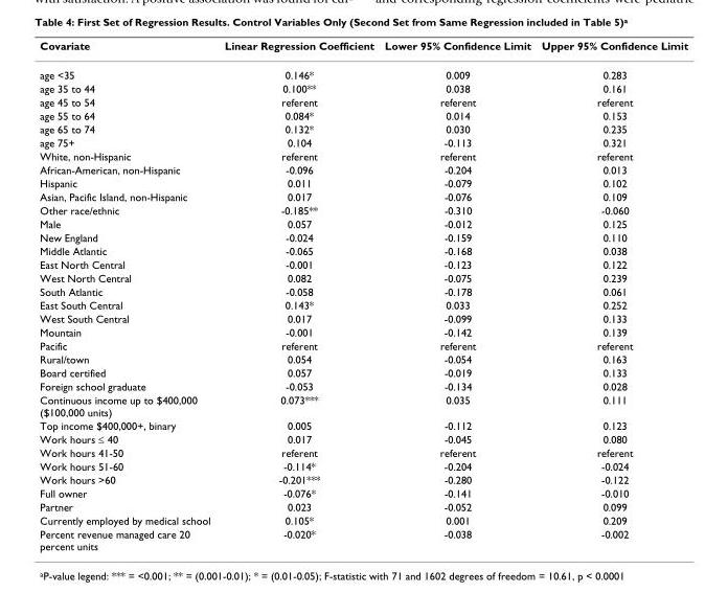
<table><thead><tr><td>Covariate</td><td>Linear Regression Coefficient</td><td>Lower 95% Confidence Limit</td><td>Upper 95% Confidence Limit</td></tr></thead><tbody><tr><td>age &lt;35</td><td>0.146*</td><td>0.009</td><td>0.283</td></tr><tr><td>age 35 to 44</td><td>0.100**</td><td>0.038</td><td>0.161</td></tr><tr><td>age 45 to 54</td><td>referent</td><td>referent</td><td>referent</td></tr><tr><td>age 55 to 64</td><td>0.084*</td><td>0.014</td><td>0.153</td></tr><tr><td>age 65 to 74</td><td>0.132*</td><td>0.030</td><td>0.235</td></tr><tr><td>age 75+</td><td>0.104</td><td>-0.113</td><td>0.321</td></tr><tr><td>White, non-Hispanic</td><td>referent</td><td>referent</td><td>referent</td></tr><tr><td>African-American, non-Hispanic</td><td>-0.096</td><td>-0.204</td><td>0.013</td></tr><tr><td>Hispanic</td><td>0.011</td><td>-0.079</td><td>0.102</td></tr><tr><td>Asian, Pacific Island, non-Hispanic</td><td>0.017</td><td>-0.076</td><td>0.109</td></tr><tr><td>Other race/ethnic</td><td>-0.185**</td><td>-0.310</td><td>-0.060</td></tr><tr><td>Male</td><td>0.057</td><td>-0.012</td><td>0.125</td></tr><tr><td>New England</td><td>-0.024</td><td>-0.159</td><td>0.110</td></tr><tr><td>Middle Atlantic</td><td>-0.065</td><td>-0.168</td><td>0.038</td></tr><tr><td>East North Central</td><td>-0.001</td><td>-0.123</td><td>0.122</td></tr><tr><td>West North Central</td><td>0.082</td><td>-0.075</td><td>0.239</td></tr><tr><td>South Atlantic</td><td>-0.058</td><td>-0.178</td><td>0.061</td></tr><tr><td>East South Central</td><td>0.143*</td><td>0.033</td><td>0.252</td></tr><tr><td>West South Central</td><td>0.017</td><td>-0.099</td><td>0.133</td></tr><tr><td>Mountain</td><td>-0.001</td><td>-0.142</td><td>0.139</td></tr><tr><td>Pacific</td><td>referent</td><td>referent</td><td>referent</td></tr><tr><td>Rural/town</td><td>0.054</td><td>-0.054</td><td>0.163</td></tr><tr><td>Board certified</td><td>0.057</td><td>-0.019</td><td>0.133</td></tr><tr><td>Foreign school graduate</td><td>-0.053</td><td>-0.134</td><td>0.028</td></tr><tr><td>Continuous income up to $400,000 ($100,000 units)</td><td>0.073***</td><td>0.035</td><td>0.111</td></tr><tr><td>Top income $400,000+, binary</td><td>0.005</td><td>-0.112</td><td>0.123</td></tr><tr><td>Work hours ≤ 40</td><td>0.017</td><td>-0.045</td><td>0.080</td></tr><tr><td>Work hours 41-50</td><td>referent</td><td>referent</td><td>referent</td></tr><tr><td>Work hours 51-60</td><td>-0.114*</td><td>-0.204</td><td>-0.024</td></tr><tr><td>Work hours &gt;60</td><td>-0.201***</td><td>-0.280</td><td>-0.122</td></tr><tr><td>Full owner</td><td>-0.076*</td><td>-0.141</td><td>-0.010</td></tr><tr><td>Partner</td><td>0.023</td><td>-0.052</td><td>0.099</td></tr><tr><td>Currently employed by medical school</td><td>0.105*</td><td>0.001</td><td>0.209</td></tr><tr><td>Percent revenue managed care 20 percent units</td><td>-0.020*</td><td>-0.038</td><td>-0.002</td></tr></tbody></table>